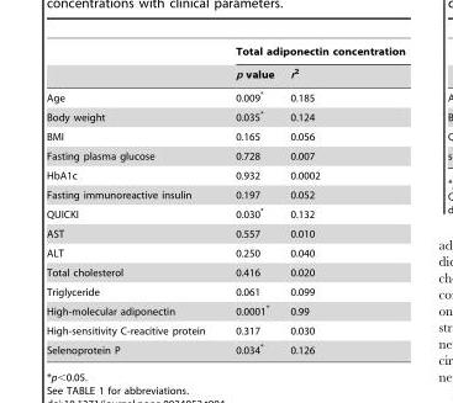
<table><thead><tr><td rowspan="2"></td><td colspan="2">Total adiponectin concentration</td></tr><tr><td>p value</td><td>r<sup>2</sup></td></tr></thead><tbody><tr><td>Age</td><td>0.009*</td><td>0.185</td></tr><tr><td>Body weight</td><td>0.035*</td><td>0.124</td></tr><tr><td>BMI</td><td>0.165</td><td>0.056</td></tr><tr><td>Fasting plasma glucose</td><td>0.728</td><td>0.007</td></tr><tr><td>HbA1c</td><td>0.932</td><td>0.0002</td></tr><tr><td>Fasting immunoreactive insulin</td><td>0.197</td><td>0.052</td></tr><tr><td>QUICKI</td><td>0.030*</td><td>0.132</td></tr><tr><td>AST</td><td>0.557</td><td>0.010</td></tr><tr><td>ALT</td><td>0.250</td><td>0.040</td></tr><tr><td>Total cholesterol</td><td>0.416</td><td>0.020</td></tr><tr><td>Triglyceride</td><td>0.061</td><td>0.099</td></tr><tr><td>High-molecular adiponectin</td><td>0.0001*</td><td>0.99</td></tr><tr><td>High-sensitivity C-reacitive protein</td><td>0.317</td><td>0.030</td></tr><tr><td>Selenoprotein P</td><td>0.034*</td><td>0.126</td></tr></tbody></table>